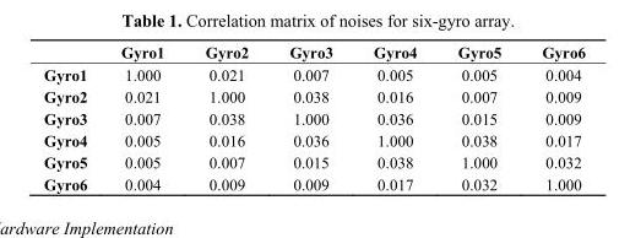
<table><thead><tr><td></td><td>Gyro1</td><td>Gyro2</td><td>Gyro3</td><td>Gyro4</td><td>Gyro5</td><td>Gyro6</td></tr></thead><tbody><tr><td>Gyro1</td><td>1.000</td><td>0.021</td><td>0.007</td><td>0.005</td><td>0.005</td><td>0.004</td></tr><tr><td>Gyro2</td><td>0.021</td><td>1.000</td><td>0.038</td><td>0.016</td><td>0.007</td><td>0.009</td></tr><tr><td>Gyro3</td><td>0.007</td><td>0.038</td><td>1.000</td><td>0.036</td><td>0.015</td><td>0.009</td></tr><tr><td>Gyro4</td><td>0.005</td><td>0.016</td><td>0.036</td><td>1.000</td><td>0.038</td><td>0.017</td></tr><tr><td>Gyro5</td><td>0.005</td><td>0.007</td><td>0.015</td><td>0.038</td><td>1.000</td><td>0.032</td></tr><tr><td>Gyro6</td><td>0.004</td><td>0.009</td><td>0.009</td><td>0.017</td><td>0.032</td><td>1.000</td></tr></tbody></table>